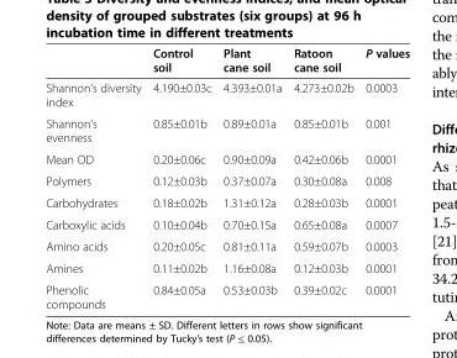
<table><thead><tr><td></td><td>Control soil</td><td>Plant cane soil</td><td>Ratoon cane soil</td><td>P values</td></tr></thead><tbody><tr><td>Shannon’s diversity index</td><td>4.190±0.03c</td><td>4.393±0.01a</td><td>4.273±0.02b</td><td>0.0003</td></tr><tr><td>Shannon’s evenness</td><td>0.85±0.01b</td><td>0.89±0.01a</td><td>0.85±0.01b</td><td>0.001</td></tr><tr><td>Mean OD</td><td>0.20±0.06c</td><td>0.90±0.09a</td><td>0.42±0.06b</td><td>0.0001</td></tr><tr><td>Polymers</td><td>0.12±0.03b</td><td>0.37±0.07a</td><td>0.30±0.08a</td><td>0.008</td></tr><tr><td>Carbohydrates</td><td>0.18±0.02b</td><td>1.31±0.12a</td><td>0.28±0.03b</td><td>0.0001</td></tr><tr><td>Carboxylic acids</td><td>0.10±0.04b</td><td>0.70±0.15a</td><td>0.65±0.08a</td><td>0.0007</td></tr><tr><td>Amino acids</td><td>0.20±0.05c</td><td>0.81±0.11a</td><td>0.59±0.07b</td><td>0.0003</td></tr><tr><td>Amines</td><td>0.11±0.02b</td><td>1.16±0.08a</td><td>0.12±0.03b</td><td>0.0001</td></tr><tr><td>Phenolic compounds</td><td>0.84±0.05a</td><td>0.53±0.03b</td><td>0.39±0.02c</td><td>0.0001</td></tr></tbody></table>